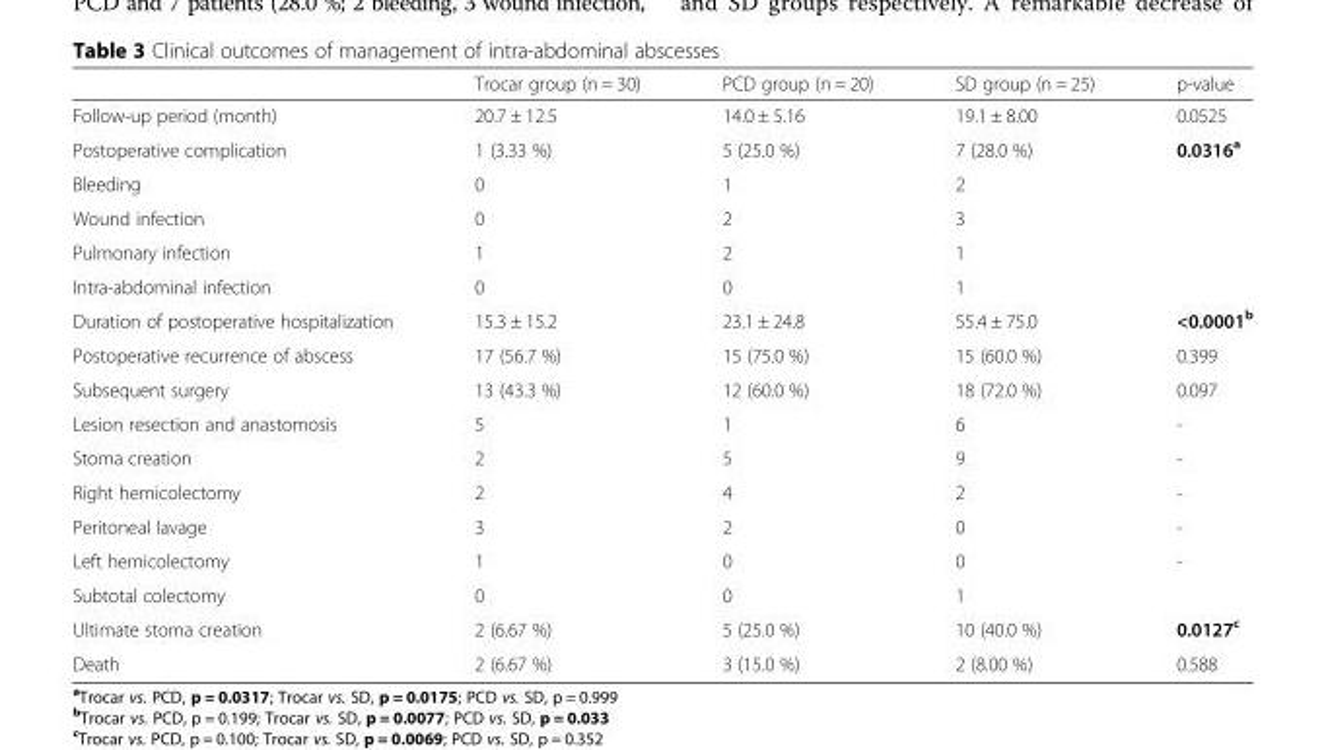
<table><thead><tr><td></td><td>Trocar group (n = 30)</td><td>PCD group (n = 20)</td><td>SD group (n = 25)</td><td>p-value</td></tr></thead><tbody><tr><td>Follow-up period (month)</td><td>20.7 ± 12.5</td><td>14.0 ± 5.16</td><td>19.1 ± 8.00</td><td>0.0525</td></tr><tr><td>Postoperative complication</td><td>1 (3.33 %)</td><td>5 (25.0 %)</td><td>7 (28.0 %)</td><td>0.0316<sup>a</sup></td></tr><tr><td>Bleeding</td><td>0</td><td>1</td><td>2</td><td></td></tr><tr><td>Wound infection</td><td>0</td><td>2</td><td>3</td><td></td></tr><tr><td>Pulmonary infection</td><td>1</td><td>2</td><td>1</td><td></td></tr><tr><td>Intra-abdominal infection</td><td>0</td><td>0</td><td>1</td><td></td></tr><tr><td>Duration of postoperative hospitalization</td><td>15.3 ± 15.2</td><td>23.1 ± 24.8</td><td>55.4 ± 75.0</td><td>&lt;0.0001<sup>b</sup></td></tr><tr><td>Postoperative recurrence of abscess</td><td>17 (56.7 %)</td><td>15 (75.0 %)</td><td>15 (60.0 %)</td><td>0.399</td></tr><tr><td>Subsequent surgery</td><td>13 (43.3 %)</td><td>12 (60.0 %)</td><td>18 (72.0 %)</td><td>0.097</td></tr><tr><td>Lesion resection and anastomosis</td><td>5</td><td>1</td><td>6</td><td>-</td></tr><tr><td>Stoma creation</td><td>2</td><td>5</td><td>9</td><td>-</td></tr><tr><td>Right hemicolectomy</td><td>2</td><td>4</td><td>2</td><td>-</td></tr><tr><td>Peritoneal lavage</td><td>3</td><td>2</td><td>0</td><td>-</td></tr><tr><td>Left hemicolectomy</td><td>1</td><td>0</td><td>0</td><td>-</td></tr><tr><td>Subtotal colectomy</td><td>0</td><td>0</td><td>1</td><td></td></tr><tr><td>Ultimate stoma creation</td><td>2 (6.67 %)</td><td>5 (25.0 %)</td><td>10 (40.0 %)</td><td>0.0127<sup>c</sup></td></tr><tr><td>Death</td><td>2 (6.67 %)</td><td>3 (15.0 %)</td><td>2 (8.00 %)</td><td>0.588</td></tr></tbody></table>